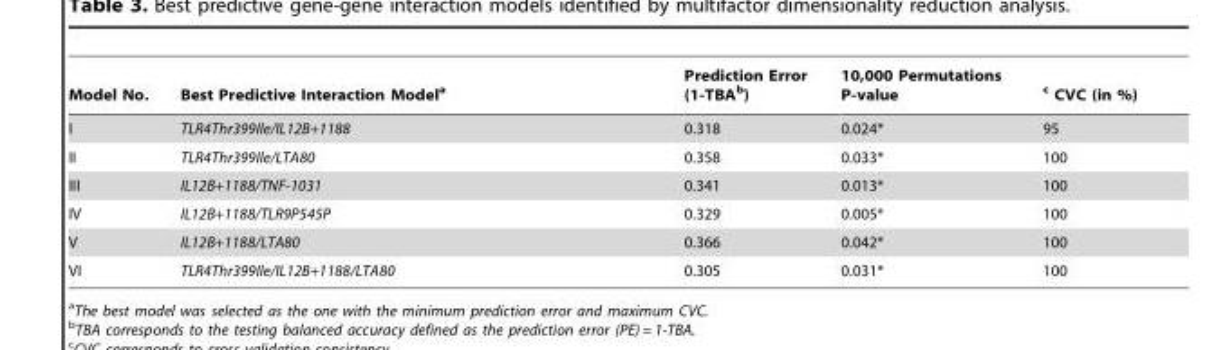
<table><thead><tr><td>Model No.</td><td>Best Predictive Interaction Model<sup>a</sup></td><td>Prediction Error (1-TBA<sup>b</sup>)</td><td>10,000 Permutations P-value</td><td>c CVC (in %)</td></tr></thead><tbody><tr><td>I</td><td>TLR4Thr399Ile/IL12B+1188</td><td>0.318</td><td>0.024*</td><td>95</td></tr><tr><td>II</td><td>TLR4Thr399Ile/LTA80</td><td>0.358</td><td>0.033*</td><td>100</td></tr><tr><td>III</td><td>IL12B+1188/TNF-1031</td><td>0.341</td><td>0.013*</td><td>100</td></tr><tr><td>IV</td><td>IL12B+1188/TLR9P545P</td><td>0.329</td><td>0.005*</td><td>100</td></tr><tr><td>V</td><td>IL12B+1188/LTA80</td><td>0.366</td><td>0.042*</td><td>100</td></tr><tr><td>VI</td><td>TLR4Thr399Ile/IL12B+1188/LTA80</td><td>0.305</td><td>0.031*</td><td>100</td></tr></tbody></table>